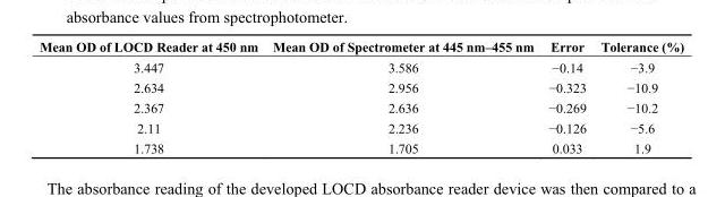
<table><thead><tr><td>Mean OD of LOCD Reader at 450 nm</td><td>Mean OD of Spectrometer at 445 nm–455 nm</td><td>Error</td><td>Tolerance (%)</td></tr></thead><tbody><tr><td>3.447</td><td>3.586</td><td>−0.14</td><td>−3.9</td></tr><tr><td>2.634</td><td>2.956</td><td>−0.323</td><td>−10.9</td></tr><tr><td>2.367</td><td>2.636</td><td>−0.269</td><td>−10.2</td></tr><tr><td>2.11</td><td>2.236</td><td>−0.126</td><td>−5.6</td></tr><tr><td>1.738</td><td>1.705</td><td>0.033</td><td>1.9</td></tr></tbody></table>